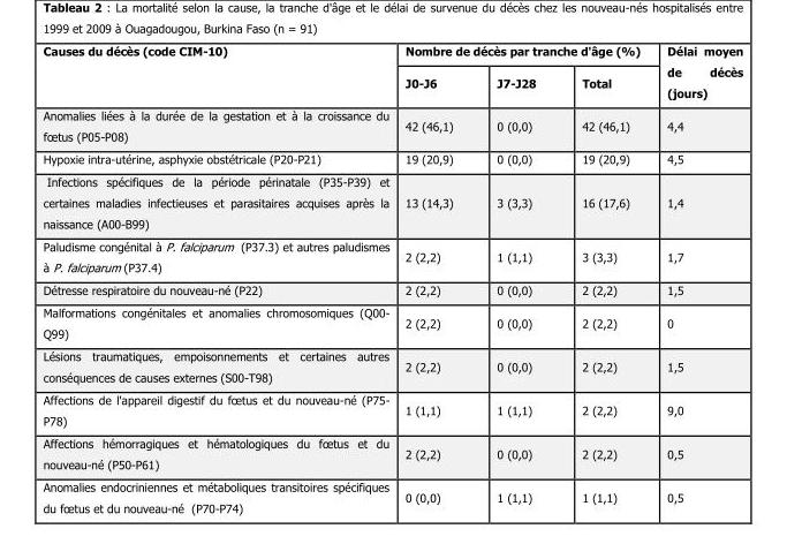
<table><thead><tr><td rowspan="2">Causes du décès (code CIM-10)</td><td colspan="3">Nombre de décès par tranche d&#x27;âge (%)</td><td rowspan="2">Délai moyen de décès (jours)</td></tr><tr><td>J0-J6</td><td>J7-J28</td><td>Total</td></tr></thead><tbody><tr><td>Anomalies liées à la durée de la gestation et à la croissance du fœtus (P05-P08)</td><td>42 (46,1)</td><td>0 (0,0)</td><td>42 (46,1)</td><td>4,4</td></tr><tr><td>Hypoxie intra-utérine, asphyxie obstétricale (P20-P21)</td><td>19 (20,9)</td><td>0 (0,0)</td><td>19 (20,9)</td><td>4,5</td></tr><tr><td>Infections spécifiques de la période périnatale (P35-P39) et certaines maladies infectieuses et parasitaires acquises après la naissance (A00-B99)</td><td>13 (14,3)</td><td>3 (3,3)</td><td>16 (17,6)</td><td>1,4</td></tr><tr><td>Paludisme congénital à P. falciparum (P37.3) et autres paludismes à P. falciparum (P37.4)</td><td>2 (2,2)</td><td>1 (1,1)</td><td>3 (3,3)</td><td>1,7</td></tr><tr><td>Détresse respiratoire du nouveau-né (P22)</td><td>2 (2,2)</td><td>0 (0,0)</td><td>2 (2,2)</td><td>1,5</td></tr><tr><td>Malformations congénitales et anomalies chromosomiques (Q00- Q99)</td><td>2 (2,2)</td><td>0 (0,0)</td><td>2 (2,2)</td><td>0</td></tr><tr><td>Lésions traumatiques, empoisonnements et certaines autres conséquences de causes externes (S00-T98)</td><td>2 (2,2)</td><td>0 (0,0)</td><td>2 (2,2)</td><td>1,5</td></tr><tr><td>Affections de l&#x27;appareil digestif du fœtus et du nouveau-né (P75- P78)</td><td>1 (1,1)</td><td>1 (1,1)</td><td>2 (2,2)</td><td>9,0</td></tr><tr><td>Affections hémorragiques et hématologiques du fœtus et du nouveau-né (P50-P61)</td><td>2 (2,2)</td><td>0 (0,0)</td><td>2 (2,2)</td><td>0,5</td></tr><tr><td>Anomalies endocriniennes et métaboliques transitoires spécifiques du fœtus et du nouveau-né (P70-P74)</td><td>0 (0,0)</td><td>1 (1,1)</td><td>1 (1,1)</td><td>0,5</td></tr></tbody></table>